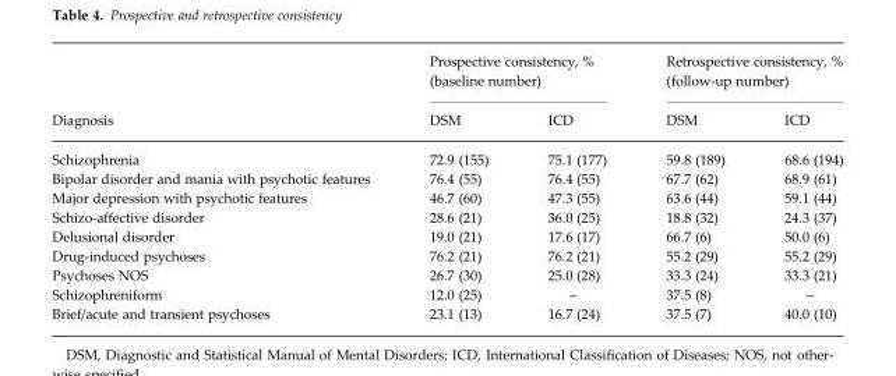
<table><thead><tr><td rowspan="2">Diagnosis</td><td colspan="2">Prospective consistency, % (baseline number)</td><td colspan="2">Retrospective consistency, % (follow-up number)</td></tr><tr><td>DSM</td><td>ICD</td><td>DSM</td><td>ICD</td></tr></thead><tbody><tr><td>Schizophrenia</td><td>72.9 (155)</td><td>75.1 (177)</td><td>59.8 (189)</td><td>68.6 (194)</td></tr><tr><td>Bipolar disorder and mania with psychotic features</td><td>76.4 (55)</td><td>76.4 (55)</td><td>67.7 (62)</td><td>68.9 (61)</td></tr><tr><td>Major depression with psychotic features</td><td>46.7 (60)</td><td>47.3 (55)</td><td>63.6 (44)</td><td>59.1 (44)</td></tr><tr><td>Schizo-affective disorder</td><td>28.6 (21)</td><td>36.0 (25)</td><td>18.8 (32)</td><td>24.3 (37)</td></tr><tr><td>Delusional disorder</td><td>19.0 (21)</td><td>17.6 (17)</td><td>66.7 (6)</td><td>50.0 (6)</td></tr><tr><td>Drug-induced psychoses</td><td>76.2 (21)</td><td>76.2 (21)</td><td>55.2 (29)</td><td>55.2 (29)</td></tr><tr><td>Psychoses NOS</td><td>26.7 (30)</td><td>25.0 (28)</td><td>33.3 (24)</td><td>33.3 (21)</td></tr><tr><td>Schizophreniform</td><td>12.0 (25)</td><td>–</td><td>37.5 (8)</td><td>–</td></tr><tr><td>Brief/acute and transient psychoses</td><td>23.1 (13)</td><td>16.7 (24)</td><td>37.5 (7)</td><td>40.0 (10)</td></tr></tbody></table>